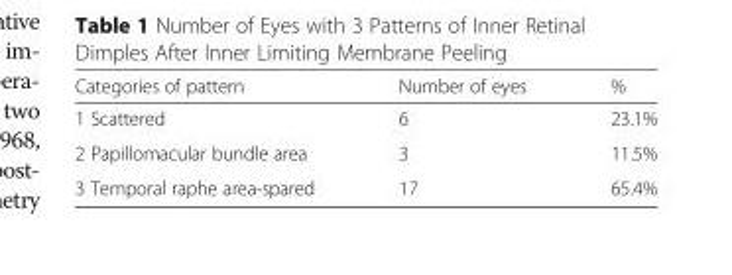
<table><thead><tr><td>Categories of pattern</td><td>Number of eyes</td><td>%</td></tr></thead><tbody><tr><td>1 Scattered</td><td>6</td><td>23.1%</td></tr><tr><td>2 Papillomacular bundle area</td><td>3</td><td>11.5%</td></tr><tr><td>3 Temporal raphe area-spared</td><td>17</td><td>65.4%</td></tr></tbody></table>